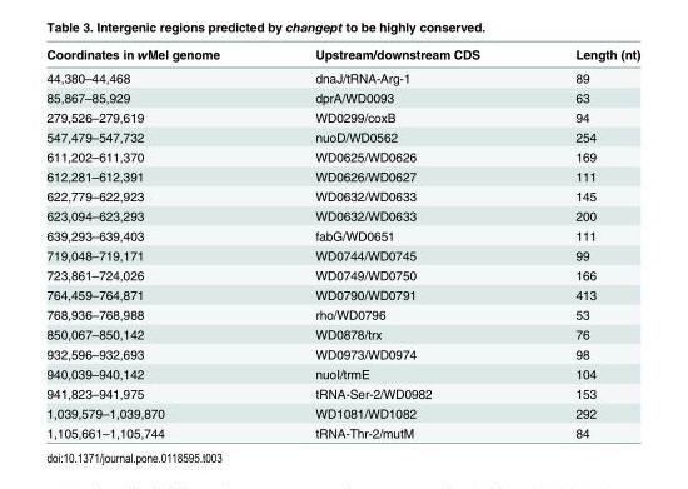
<table><thead><tr><td>Coordinates in wMel genome</td><td>Upstream/downstream CDS</td><td>Length (nt)</td></tr></thead><tbody><tr><td>44,380–44,468</td><td>dnaJ/tRNA-Arg-1</td><td>89</td></tr><tr><td>85,867–85,929</td><td>dprA/WD0093</td><td>63</td></tr><tr><td>279,526–279,619</td><td>WD0299/coxB</td><td>94</td></tr><tr><td>547,479–547,732</td><td>nuoD/WD0562</td><td>254</td></tr><tr><td>611,202–611,370</td><td>WD0625/WD0626</td><td>169</td></tr><tr><td>612,281–612,391</td><td>WD0626/WD0627</td><td>111</td></tr><tr><td>622,779–622,923</td><td>WD0632/WD0633</td><td>145</td></tr><tr><td>623,094–623,293</td><td>WD0632/WD0633</td><td>200</td></tr><tr><td>639,293–639,403</td><td>fabG/WD0651</td><td>111</td></tr><tr><td>719,048–719,171</td><td>WD0744/WD0745</td><td>99</td></tr><tr><td>723,861–724,026</td><td>WD0749/WD0750</td><td>166</td></tr><tr><td>764,459–764,871</td><td>WD0790/WD0791</td><td>413</td></tr><tr><td>768,936–768,988</td><td>rho/WD0796</td><td>53</td></tr><tr><td>850,067–850,142</td><td>WD0878/trx</td><td>76</td></tr><tr><td>932,596–932,693</td><td>WD0973/WD0974</td><td>98</td></tr><tr><td>940,039–940,142</td><td>nuoI/trmE</td><td>104</td></tr><tr><td>941,823–941,975</td><td>tRNA-Ser-2/WD0982</td><td>153</td></tr><tr><td>1,039,579–1,039,870</td><td>WD1081/WD1082</td><td>292</td></tr><tr><td>1,105,661–1,105,744</td><td>tRNA-Thr-2/mutM</td><td>84</td></tr></tbody></table>